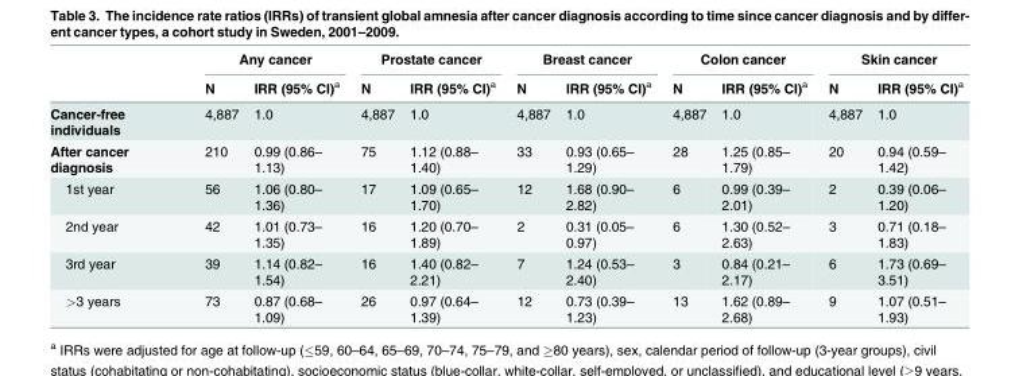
<table><thead><tr><td rowspan="2"></td><td colspan="2">Any cancer</td><td colspan="2">Prostate cancer</td><td colspan="2">Breast cancer</td><td colspan="2">Colon cancer</td><td colspan="2">Skin cancer</td></tr><tr><td>N</td><td>IRR (95% CI)<sup>a</sup></td><td>N</td><td>IRR (95% CI)<sup>a</sup></td><td>N</td><td>IRR (95% CI)<sup>a</sup></td><td>N</td><td>IRR (95% CI)<sup>a</sup></td><td>N</td><td>IRR (95% CI)<sup>a</sup></td></tr></thead><tbody><tr><td>Cancer-free individuals</td><td>4,887</td><td>1.0</td><td>4,887</td><td>1.0</td><td>4,887</td><td>1.0</td><td>4,887</td><td>1.0</td><td>4,887</td><td>1.0</td></tr><tr><td>After cancer diagnosis</td><td>210</td><td>0.99 (0.86– 1.13)</td><td>75</td><td>1.12 (0.88– 1.40)</td><td>33</td><td>0.93 (0.65– 1.29)</td><td>28</td><td>1.25 (0.85– 1.79)</td><td>20</td><td>0.94 (0.59– 1.42)</td></tr><tr><td>1st year</td><td>56</td><td>1.06 (0.80– 1.36)</td><td>17</td><td>1.09 (0.65– 1.70)</td><td>12</td><td>1.68 (0.90– 2.82)</td><td>6</td><td>0.99 (0.39– 2.01)</td><td>2</td><td>0.39 (0.06– 1.20)</td></tr><tr><td>2nd year</td><td>42</td><td>1.01 (0.73– 1.35)</td><td>16</td><td>1.20 (0.70– 1.89)</td><td>2</td><td>0.31 (0.05– 0.97)</td><td>6</td><td>1.30 (0.52– 2.63)</td><td>3</td><td>0.71 (0.18– 1.83)</td></tr><tr><td>3rd year</td><td>39</td><td>1.14 (0.82– 1.54)</td><td>16</td><td>1.40 (0.82– 2.21)</td><td>7</td><td>1.24 (0.53– 2.40)</td><td>3</td><td>0.84 (0.21– 2.17)</td><td>6</td><td>1.73 (0.69– 3.51)</td></tr><tr><td>&gt;3 years</td><td>73</td><td>0.87 (0.68– 1.09)</td><td>26</td><td>0.97 (0.64– 1.39)</td><td>12</td><td>0.73 (0.39– 1.23)</td><td>13</td><td>1.62 (0.89– 2.68)</td><td>9</td><td>1.07 (0.51– 1.93)</td></tr></tbody></table>